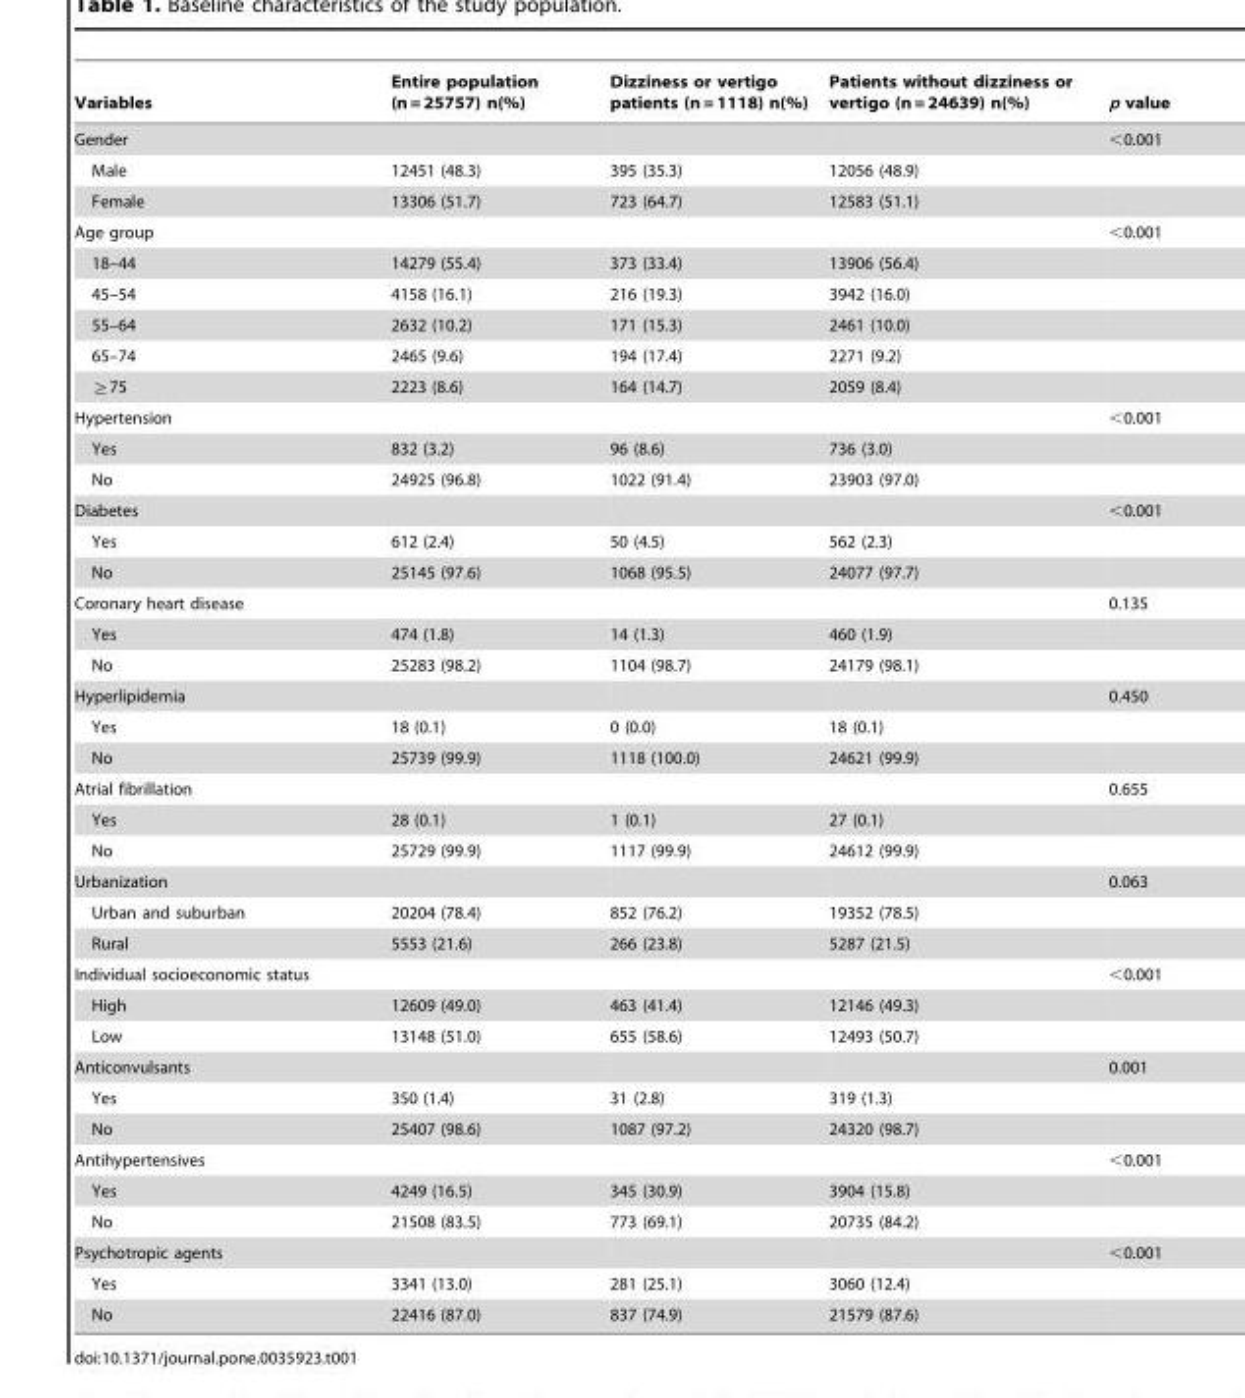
<table><thead><tr><td>Variables</td><td>Entire population (n = 25757) n(%)</td><td>Dizziness or vertigo patients (n = 1118) n(%)</td><td>Patients without dizziness or vertigo (n = 24639) n(%)</td><td>p value</td></tr></thead><tbody><tr><td>Gender</td><td></td><td></td><td></td><td>&lt;0.001</td></tr><tr><td>Male</td><td>12451 (48.3)</td><td>395 (35.3)</td><td>12056 (48.9)</td><td></td></tr><tr><td>Female</td><td>13306 (51.7)</td><td>723 (64.7)</td><td>12583 (51.1)</td><td></td></tr><tr><td>Age group</td><td></td><td></td><td></td><td>&lt;0.001</td></tr><tr><td>18–44</td><td>14279 (55.4)</td><td>373 (33.4)</td><td>13906 (56.4)</td><td></td></tr><tr><td>45–54</td><td>4158 (16.1)</td><td>216 (19.3)</td><td>3942 (16.0)</td><td></td></tr><tr><td>55–64</td><td>2632 (10.2)</td><td>171 (15.3)</td><td>2461 (10.0)</td><td></td></tr><tr><td>65–74</td><td>2465 (9.6)</td><td>194 (17.4)</td><td>2271 (9.2)</td><td></td></tr><tr><td>≧75</td><td>2223 (8.6)</td><td>164 (14.7)</td><td>2059 (8.4)</td><td></td></tr><tr><td>Hypertension</td><td></td><td></td><td></td><td>&lt;0.001</td></tr><tr><td>Yes</td><td>832 (3.2)</td><td>96 (8.6)</td><td>736 (3.0)</td><td></td></tr><tr><td>No</td><td>24925 (96.8)</td><td>1022 (91.4)</td><td>23903 (97.0)</td><td></td></tr><tr><td>Diabetes</td><td></td><td></td><td></td><td>&lt;0.001</td></tr><tr><td>Yes</td><td>612 (2.4)</td><td>50 (4.5)</td><td>562 (2.3)</td><td></td></tr><tr><td>No</td><td>25145 (97.6)</td><td>1068 (95.5)</td><td>24077 (97.7)</td><td></td></tr><tr><td>Coronary heart disease</td><td></td><td></td><td></td><td>0.135</td></tr><tr><td>Yes</td><td>474 (1.8)</td><td>14 (1.3)</td><td>460 (1.9)</td><td></td></tr><tr><td>No</td><td>25283 (98.2)</td><td>1104 (98.7)</td><td>24179 (98.1)</td><td></td></tr><tr><td>Hyperlipidemia</td><td></td><td></td><td></td><td>0.450</td></tr><tr><td>Yes</td><td>18 (0.1)</td><td>0 (0.0)</td><td>18 (0.1)</td><td></td></tr><tr><td>No</td><td>25739 (99.9)</td><td>1118 (100.0)</td><td>24621 (99.9)</td><td></td></tr><tr><td>Atrial fibrillation</td><td></td><td></td><td></td><td>0.655</td></tr><tr><td>Yes</td><td>28 (0.1)</td><td>1 (0.1)</td><td>27 (0.1)</td><td></td></tr><tr><td>No</td><td>25729 (99.9)</td><td>1117 (99.9)</td><td>24612 (99.9)</td><td></td></tr><tr><td>Urbanization</td><td></td><td></td><td></td><td>0.063</td></tr><tr><td>Urban and suburban</td><td>20204 (78.4)</td><td>852 (76.2)</td><td>19352 (78.5)</td><td></td></tr><tr><td>Rural</td><td>5553 (21.6)</td><td>266 (23.8)</td><td>5287 (21.5)</td><td></td></tr><tr><td>Individual socioeconomic status</td><td></td><td></td><td></td><td>&lt;0.001</td></tr><tr><td>High</td><td>12609 (49.0)</td><td>463 (41.4)</td><td>12146 (49.3)</td><td></td></tr><tr><td>Low</td><td>13148 (51.0)</td><td>655 (58.6)</td><td>12493 (50.7)</td><td></td></tr><tr><td>Anticonvulsants</td><td></td><td></td><td></td><td>0.001</td></tr><tr><td>Yes</td><td>350 (1.4)</td><td>31 (2.8)</td><td>319 (1.3)</td><td></td></tr><tr><td>No</td><td>25407 (98.6)</td><td>1087 (97.2)</td><td>24320 (98.7)</td><td></td></tr><tr><td>Antihypertensives</td><td></td><td></td><td></td><td>&lt;0.001</td></tr><tr><td>Yes</td><td>4249 (16.5)</td><td>345 (30.9)</td><td>3904 (15.8)</td><td></td></tr><tr><td>No</td><td>21508 (83.5)</td><td>773 (69.1)</td><td>20735 (84.2)</td><td></td></tr><tr><td>Psychotropic agents</td><td></td><td></td><td></td><td>&lt;0.001</td></tr><tr><td>Yes</td><td>3341 (13.0)</td><td>281 (25.1)</td><td>3060 (12.4)</td><td></td></tr><tr><td>No</td><td>22416 (87.0)</td><td>837 (74.9)</td><td>21579 (87.6)</td><td></td></tr></tbody></table>